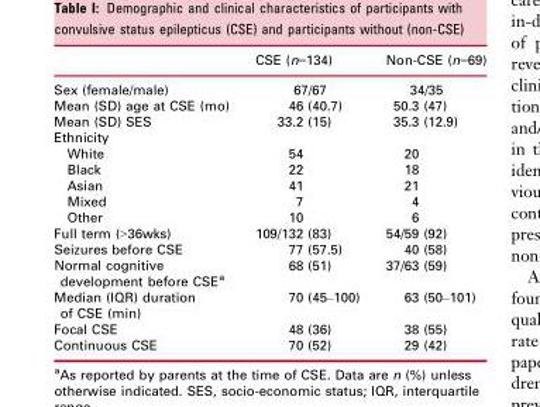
<table><thead><tr><td></td><td>CSE (n=134)</td><td>Non-CSE (n=69)</td></tr></thead><tbody><tr><td>Sex (female/male)</td><td>67/67</td><td>34/35</td></tr><tr><td>Mean (SD) age at CSE (mo)</td><td>46 (40.7)</td><td>50.3 (47)</td></tr><tr><td>Mean (SD) SES</td><td>33.2 (15)</td><td>35.3 (12.9)</td></tr><tr><td colspan="3">Ethnicity</td></tr><tr><td>White</td><td>54</td><td>20</td></tr><tr><td>Black</td><td>22</td><td>18</td></tr><tr><td>Asian</td><td>41</td><td>21</td></tr><tr><td>Mixed</td><td>7</td><td>4</td></tr><tr><td>Other</td><td>10</td><td>6</td></tr><tr><td>Full term (&gt;36wks)</td><td>109/132 (83)</td><td>54/59 (92)</td></tr><tr><td>Seizures before CSE</td><td>77 (57.5)</td><td>40 (58)</td></tr><tr><td>Normal cognitive development before CSE<sup>a</sup></td><td>68 (51)</td><td>37/63 (59)</td></tr><tr><td>Median (IQR) duration of CSE (min)</td><td>70 (45–100)</td><td>63 (50–101)</td></tr><tr><td>Focal CSE</td><td>48 (36)</td><td>38 (55)</td></tr><tr><td>Continuous CSE</td><td>70 (52)</td><td>29 (42)</td></tr></tbody></table>